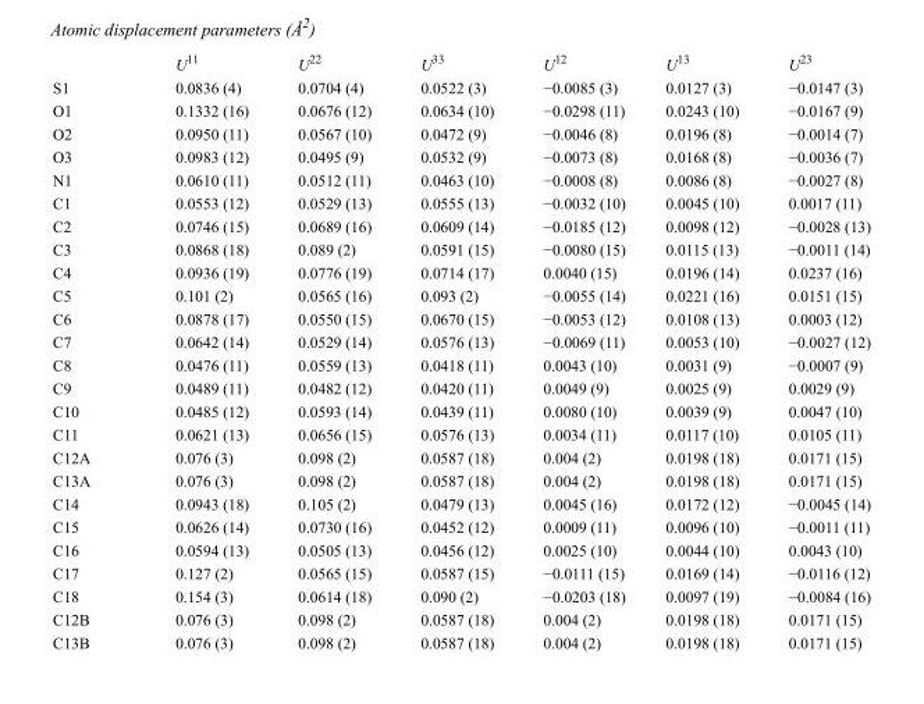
<table><thead><tr><td></td><td>U<sup>11</sup></td><td>U<sup>22</sup></td><td>U<sup>33</sup></td><td>U<sup>12</sup></td><td>U<sup>13</sup></td><td>U<sup>23</sup></td></tr></thead><tbody><tr><td>S1</td><td>0.0836 (4)</td><td>0.0704 (4)</td><td>0.0522 (3)</td><td>−0.0085 (3)</td><td>0.0127 (3)</td><td>−0.0147 (3)</td></tr><tr><td>O1</td><td>0.1332 (16)</td><td>0.0676 (12)</td><td>0.0634 (10)</td><td>−0.0298 (11)</td><td>0.0243 (10)</td><td>−0.0167 (9)</td></tr><tr><td>O2</td><td>0.0950 (11)</td><td>0.0567 (10)</td><td>0.0472 (9)</td><td>−0.0046 (8)</td><td>0.0196 (8)</td><td>−0.0014 (7)</td></tr><tr><td>O3</td><td>0.0983 (12)</td><td>0.0495 (9)</td><td>0.0532 (9)</td><td>−0.0073 (8)</td><td>0.0168 (8)</td><td>−0.0036 (7)</td></tr><tr><td>N1</td><td>0.0610 (11)</td><td>0.0512 (11)</td><td>0.0463 (10)</td><td>−0.0008 (8)</td><td>0.0086 (8)</td><td>−0.0027 (8)</td></tr><tr><td>C1</td><td>0.0553 (12)</td><td>0.0529 (13)</td><td>0.0555 (13)</td><td>−0.0032 (10)</td><td>0.0045 (10)</td><td>0.0017 (11)</td></tr><tr><td>C2</td><td>0.0746 (15)</td><td>0.0689 (16)</td><td>0.0609 (14)</td><td>−0.0185 (12)</td><td>0.0098 (12)</td><td>−0.0028 (13)</td></tr><tr><td>C3</td><td>0.0868 (18)</td><td>0.089 (2)</td><td>0.0591 (15)</td><td>−0.0080 (15)</td><td>0.0115 (13)</td><td>−0.0011 (14)</td></tr><tr><td>C4</td><td>0.0936 (19)</td><td>0.0776 (19)</td><td>0.0714 (17)</td><td>0.0040 (15)</td><td>0.0196 (14)</td><td>0.0237 (16)</td></tr><tr><td>C5</td><td>0.101 (2)</td><td>0.0565 (16)</td><td>0.093 (2)</td><td>−0.0055 (14)</td><td>0.0221 (16)</td><td>0.0151 (15)</td></tr><tr><td>C6</td><td>0.0878 (17)</td><td>0.0550 (15)</td><td>0.0670 (15)</td><td>−0.0053 (12)</td><td>0.0108 (13)</td><td>0.0003 (12)</td></tr><tr><td>C7</td><td>0.0642 (14)</td><td>0.0529 (14)</td><td>0.0576 (13)</td><td>−0.0069 (11)</td><td>0.0053 (10)</td><td>−0.0027 (12)</td></tr><tr><td>C8</td><td>0.0476 (11)</td><td>0.0559 (13)</td><td>0.0418 (11)</td><td>0.0043 (10)</td><td>0.0031 (9)</td><td>−0.0007 (9)</td></tr><tr><td>C9</td><td>0.0489 (11)</td><td>0.0482 (12)</td><td>0.0420 (11)</td><td>0.0049 (9)</td><td>0.0025 (9)</td><td>0.0029 (9)</td></tr><tr><td>C10</td><td>0.0485 (12)</td><td>0.0593 (14)</td><td>0.0439 (11)</td><td>0.0080 (10)</td><td>0.0039 (9)</td><td>0.0047 (10)</td></tr><tr><td>C11</td><td>0.0621 (13)</td><td>0.0656 (15)</td><td>0.0576 (13)</td><td>0.0034 (11)</td><td>0.0117 (10)</td><td>0.0105 (11)</td></tr><tr><td>C12A</td><td>0.076 (3)</td><td>0.098 (2)</td><td>0.0587 (18)</td><td>0.004 (2)</td><td>0.0198 (18)</td><td>0.0171 (15)</td></tr><tr><td>C13A</td><td>0.076 (3)</td><td>0.098 (2)</td><td>0.0587 (18)</td><td>0.004 (2)</td><td>0.0198 (18)</td><td>0.0171 (15)</td></tr><tr><td>C14</td><td>0.0943 (18)</td><td>0.105 (2)</td><td>0.0479 (13)</td><td>0.0045 (16)</td><td>0.0172 (12)</td><td>−0.0045 (14)</td></tr><tr><td>C15</td><td>0.0626 (14)</td><td>0.0730 (16)</td><td>0.0452 (12)</td><td>0.0009 (11)</td><td>0.0096 (10)</td><td>−0.0011 (11)</td></tr><tr><td>C16</td><td>0.0594 (13)</td><td>0.0505 (13)</td><td>0.0456 (12)</td><td>0.0025 (10)</td><td>0.0044 (10)</td><td>0.0043 (10)</td></tr><tr><td>C17</td><td>0.127 (2)</td><td>0.0565 (15)</td><td>0.0587 (15)</td><td>−0.0111 (15)</td><td>0.0169 (14)</td><td>−0.0116 (12)</td></tr><tr><td>C18</td><td>0.154 (3)</td><td>0.0614 (18)</td><td>0.090 (2)</td><td>−0.0203 (18)</td><td>0.0097 (19)</td><td>−0.0084 (16)</td></tr><tr><td>C12B</td><td>0.076 (3)</td><td>0.098 (2)</td><td>0.0587 (18)</td><td>0.004 (2)</td><td>0.0198 (18)</td><td>0.0171 (15)</td></tr><tr><td>C13B</td><td>0.076 (3)</td><td>0.098 (2)</td><td>0.0587 (18)</td><td>0.004 (2)</td><td>0.0198 (18)</td><td>0.0171 (15)</td></tr></tbody></table>